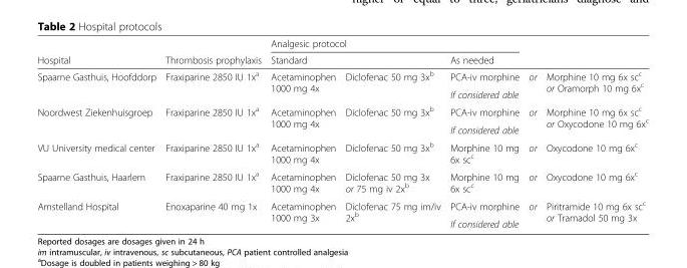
<table><thead><tr><td rowspan="2">Hospital</td><td rowspan="2">Thrombosis prophylaxis</td><td colspan="3">Analgesic protocol</td><td rowspan="2"></td><td rowspan="2"></td></tr><tr><td>Standard</td><td></td><td>As needed</td></tr></thead><tbody><tr><td rowspan="2">Spaarne Gasthuis, Hoofddorp</td><td rowspan="2">Fraxiparine 2850 IU 1x<sup>a</sup></td><td rowspan="2">Acetaminophen 1000 mg 4x</td><td rowspan="2">Diclofenac 50 mg 3x<sup>b</sup></td><td>PCA-iv morphine</td><td rowspan="2">or</td><td rowspan="2">Morphine 10 mg 6x sc<sup>c</sup> or Oramorph 10 mg 6x<sup>c</sup></td></tr><tr><td>If considered able</td></tr><tr><td rowspan="2">Noordwest Ziekenhuisgroep</td><td rowspan="2">Fraxiparine 2850 IU 1x<sup>a</sup></td><td rowspan="2">Acetaminophen 1000 mg 4x</td><td rowspan="2">Diclofenac 50 mg 3x<sup>b</sup></td><td>PCA-iv morphine</td><td rowspan="2">or</td><td rowspan="2">Morphine 10 mg 6x sc<sup>c</sup> or Oxycodone 10 mg 6x<sup>c</sup></td></tr><tr><td>If considered able</td></tr><tr><td>VU University medical center</td><td>Fraxiparine 2850 IU 1x<sup>a</sup></td><td>Acetaminophen 1000 mg 4x</td><td>Diclofenac 50 mg 3x<sup>b</sup></td><td>Morphine 10 mg 6x sc<sup>c</sup></td><td>or</td><td>Oxycodone 10 mg 6x<sup>c</sup></td></tr><tr><td>Spaarne Gasthuis, Haarlem</td><td>Fraxiparine 2850 IU 1x<sup>a</sup></td><td>Acetaminophen 1000 mg 4x</td><td>Diclofenac 50 mg 3x or 75 mg iv 2x<sup>b</sup></td><td>Morphine 10 mg 6x sc<sup>c</sup></td><td>or</td><td>Oxycodone 10 mg 6x<sup>c</sup></td></tr><tr><td rowspan="2">Amstelland Hospital</td><td rowspan="2">Enoxaparine 40 mg 1x</td><td rowspan="2">Acetaminophen 1000 mg 3x</td><td rowspan="2">Diclofenac 75 mg im/iv 2x<sup>b</sup></td><td>PCA-iv morphine</td><td rowspan="2">or</td><td rowspan="2">Piritramide 10 mg 6x sc<sup>c</sup> or Tramadol 50 mg 3x</td></tr><tr><td>If considered able</td></tr></tbody></table>